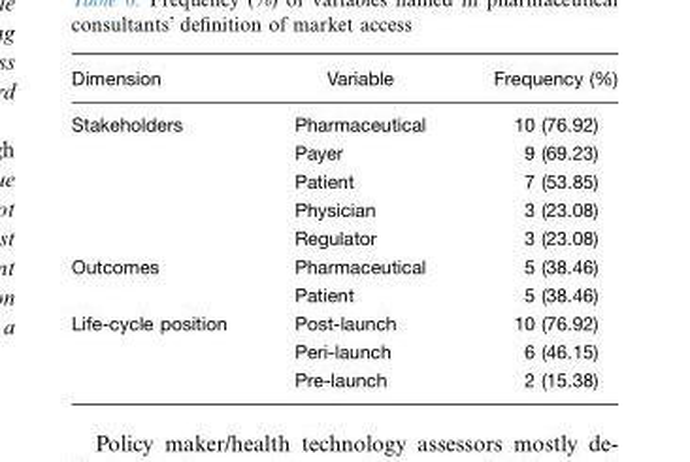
<table><thead><tr><td>Dimension</td><td>Variable</td><td>Frequency (%)</td></tr></thead><tbody><tr><td rowspan="5">Stakeholders</td><td>Pharmaceutical</td><td>10 (76.92)</td></tr><tr><td>Payer</td><td>9 (69.23)</td></tr><tr><td>Patient</td><td>7 (53.85)</td></tr><tr><td>Physician</td><td>3 (23.08)</td></tr><tr><td>Regulator</td><td>3 (23.08)</td></tr><tr><td rowspan="2">Outcomes</td><td>Pharmaceutical</td><td>5 (38.46)</td></tr><tr><td>Patient</td><td>5 (38.46)</td></tr><tr><td rowspan="3">Life-cycle position</td><td>Post-launch</td><td>10 (76.92)</td></tr><tr><td>Peri-launch</td><td>6 (46.15)</td></tr><tr><td>Pre-launch</td><td>2 (15.38)</td></tr></tbody></table>